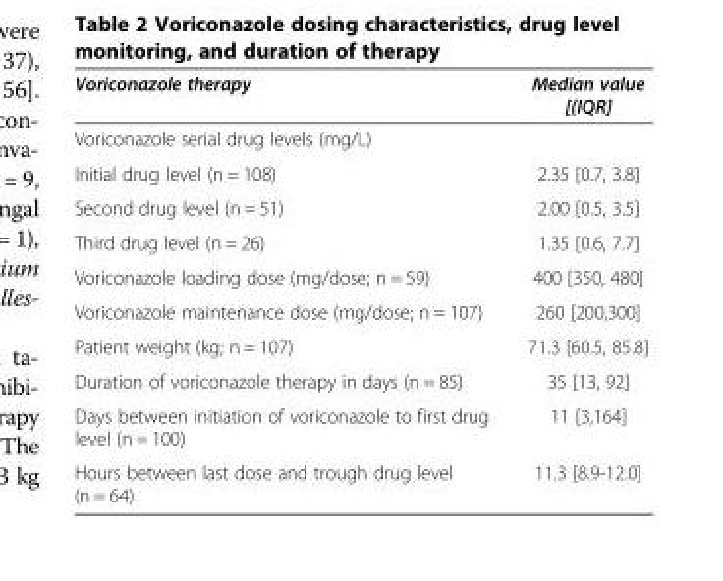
<table><thead><tr><td>Voriconazole therapy</td><td>Median value [(IQR]</td></tr></thead><tbody><tr><td colspan="2">Voriconazole serial drug levels (mg/L)</td></tr><tr><td>Initial drug level (n = 108)</td><td>2.35 [0.7, 3.8]</td></tr><tr><td>Second drug level (n = 51)</td><td>2.00 [0.5, 3.5]</td></tr><tr><td>Third drug level (n = 26)</td><td>1.35 [0.6, 7.7]</td></tr><tr><td>Voriconazole loading dose (mg/dose; n = 59)</td><td>400 [350, 480]</td></tr><tr><td>Voriconazole maintenance dose (mg/dose; n = 107)</td><td>260 [200,300]</td></tr><tr><td>Patient weight (kg; n = 107)</td><td>71.3 [60.5, 85.8]</td></tr><tr><td>Duration of voriconazole therapy in days (n = 85)</td><td>35 [13, 92]</td></tr><tr><td>Days between initiation of voriconazole to first drug level (n = 100)</td><td>11 [3,164]</td></tr><tr><td>Hours between last dose and trough drug level (n = 64)</td><td>11.3 [8.9-12.0]</td></tr></tbody></table>